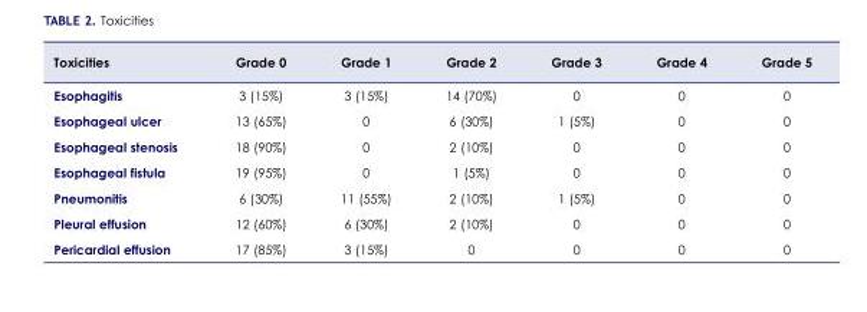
<table><thead><tr><td>Toxicities</td><td>Grade 0</td><td>Grade 1</td><td>Grade 2</td><td>Grade 3</td><td>Grade 4</td><td>Grade 5</td></tr></thead><tbody><tr><td>Esophagitis</td><td>3 (15%)</td><td>3 (15%)</td><td>14 (70%)</td><td>0</td><td>0</td><td>0</td></tr><tr><td>Esophageal ulcer</td><td>13 (65%)</td><td>0</td><td>6 (30%)</td><td>1 (5%)</td><td>0</td><td>0</td></tr><tr><td>Esophageal stenosis</td><td>18 (90%)</td><td>0</td><td>2 (10%)</td><td>0</td><td>0</td><td>0</td></tr><tr><td>Esophageal fistula</td><td>19 (95%)</td><td>0</td><td>1 (5%)</td><td>0</td><td>0</td><td>0</td></tr><tr><td>Pneumonitis</td><td>6 (30%)</td><td>11 (55%)</td><td>2 (10%)</td><td>1 (5%)</td><td>0</td><td>0</td></tr><tr><td>Pleural effusion</td><td>12 (60%)</td><td>6 (30%)</td><td>2 (10%)</td><td>0</td><td>0</td><td>0</td></tr><tr><td>Pericardial effusion</td><td>17 (85%)</td><td>3 (15%)</td><td>0</td><td>0</td><td>0</td><td>0</td></tr></tbody></table>